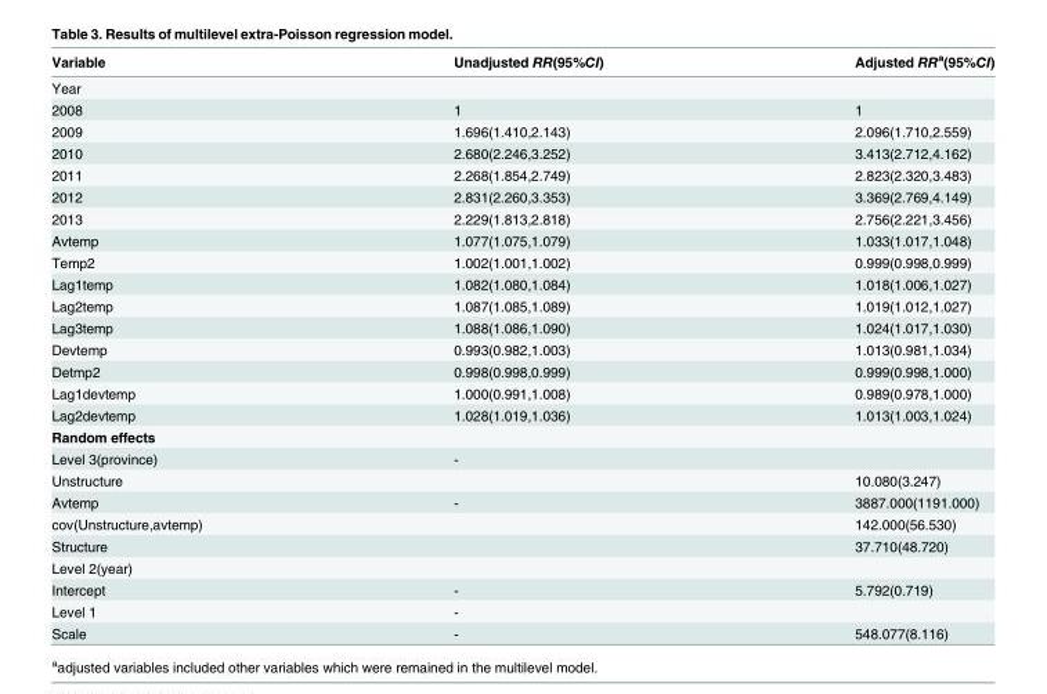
<table><thead><tr><td>Variable</td><td>Unadjusted RR(95%CI)</td><td>Adjusted RR<sup>a</sup>(95%CI)</td></tr></thead><tbody><tr><td colspan="3">Year</td></tr><tr><td>2008</td><td>1</td><td>1</td></tr><tr><td>2009</td><td>1.696(1.410,2.143)</td><td>2.096(1.710,2.559)</td></tr><tr><td>2010</td><td>2.680(2.246,3.252)</td><td>3.413(2.712,4.162)</td></tr><tr><td>2011</td><td>2.268(1.854,2.749)</td><td>2.823(2.320,3.483)</td></tr><tr><td>2012</td><td>2.831(2.260,3.353)</td><td>3.369(2.769,4.149)</td></tr><tr><td>2013</td><td>2.229(1.813,2.818)</td><td>2.756(2.221,3.456)</td></tr><tr><td>Avtemp</td><td>1.077(1.075,1.079)</td><td>1.033(1.017,1.048)</td></tr><tr><td>Temp2</td><td>1.002(1.001,1.002)</td><td>0.999(0.998,0.999)</td></tr><tr><td>Lag1temp</td><td>1.082(1.080,1.084)</td><td>1.018(1.006,1.027)</td></tr><tr><td>Lag2temp</td><td>1.087(1.085,1.089)</td><td>1.019(1.012,1.027)</td></tr><tr><td>Lag3temp</td><td>1.088(1.086,1.090)</td><td>1.024(1.017,1.030)</td></tr><tr><td>Devtemp</td><td>0.993(0.982,1.003)</td><td>1.013(0.981,1.034)</td></tr><tr><td>Detmp2</td><td>0.998(0.998,0.999)</td><td>0.999(0.998,1.000)</td></tr><tr><td>Lag1devtemp</td><td>1.000(0.991,1.008)</td><td>0.989(0.978,1.000)</td></tr><tr><td>Lag2devtemp</td><td>1.028(1.019,1.036)</td><td>1.013(1.003,1.024)</td></tr><tr><td colspan="3">Random effects</td></tr><tr><td>Level 3(province)</td><td>-</td><td></td></tr><tr><td>Unstructure</td><td></td><td>10.080(3.247)</td></tr><tr><td>Avtemp</td><td>-</td><td>3887.000(1191.000)</td></tr><tr><td>cov(Unstructure,avtemp)</td><td></td><td>142.000(56.530)</td></tr><tr><td>Structure</td><td></td><td>37.710(48.720)</td></tr><tr><td colspan="3">Level 2(year)</td></tr><tr><td>Intercept</td><td>-</td><td>5.792(0.719)</td></tr><tr><td>Level 1</td><td>-</td><td></td></tr><tr><td>Scale</td><td>-</td><td>548.077(8.116)</td></tr></tbody></table>